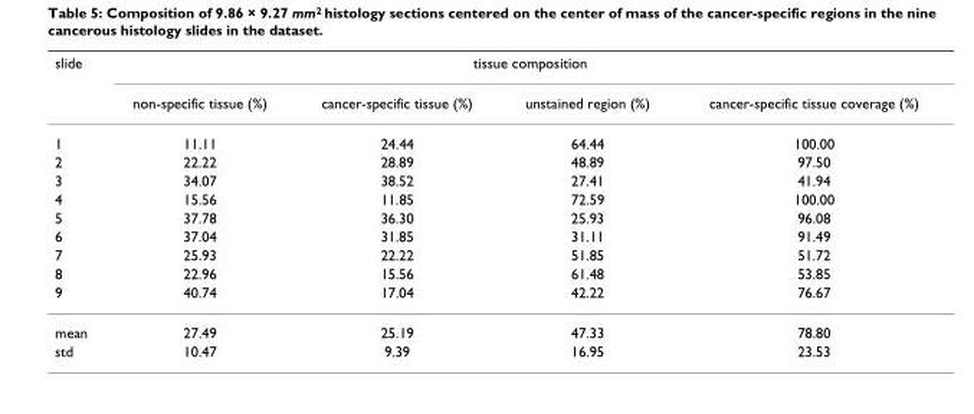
<table><thead><tr><td rowspan="2">slide</td><td colspan="4">tissue composition</td></tr><tr><td>non-specific tissue (%)</td><td>cancer-specific tissue (%)</td><td>unstained region (%)</td><td>cancer-specific tissue coverage (%)</td></tr></thead><tbody><tr><td>1</td><td>11.11</td><td>24.44</td><td>64.44</td><td>100.00</td></tr><tr><td>2</td><td>22.22</td><td>28.89</td><td>48.89</td><td>97.50</td></tr><tr><td>3</td><td>34.07</td><td>38.52</td><td>27.41</td><td>41.94</td></tr><tr><td>4</td><td>15.56</td><td>11.85</td><td>72.59</td><td>100.00</td></tr><tr><td>5</td><td>37.78</td><td>36.30</td><td>25.93</td><td>96.08</td></tr><tr><td>6</td><td>37.04</td><td>31.85</td><td>31.11</td><td>91.49</td></tr><tr><td>7</td><td>25.93</td><td>22.22</td><td>51.85</td><td>51.72</td></tr><tr><td>8</td><td>22.96</td><td>15.56</td><td>61.48</td><td>53.85</td></tr><tr><td>9</td><td>40.74</td><td>17.04</td><td>42.22</td><td>76.67</td></tr><tr><td>mean</td><td>27.49</td><td>25.19</td><td>47.33</td><td>78.80</td></tr><tr><td>std</td><td>10.47</td><td>9.39</td><td>16.95</td><td>23.53</td></tr></tbody></table>